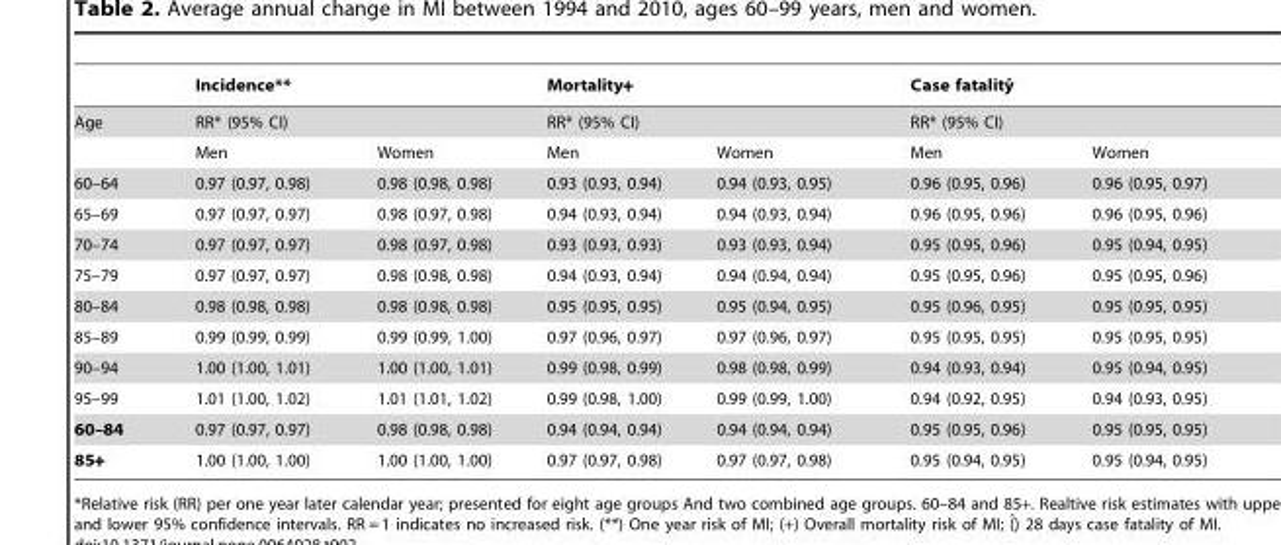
<table><thead><tr><td rowspan="3">Age</td><td rowspan="2" colspan="2">Incidence** RR* (95% CI)</td><td rowspan="2" colspan="2">Mortality+ RR* (95% CI)</td><td rowspan="2" colspan="2">Case fatalityˆ RR* (95% CI)</td></tr><tr></tr><tr><td>Men</td><td>Women</td><td>Men</td><td>Women</td><td>Men</td><td>Women</td></tr></thead><tbody><tr><td>60–64</td><td>0.97 (0.97, 0.98)</td><td>0.98 (0.98, 0.98)</td><td>0.93 (0.93, 0.94)</td><td>0.94 (0.93, 0.95)</td><td>0.96 (0.95, 0.96)</td><td>0.96 (0.95, 0.97)</td></tr><tr><td>65–69</td><td>0.97 (0.97, 0.97)</td><td>0.98 (0.97, 0.98)</td><td>0.94 (0.93, 0.94)</td><td>0.94 (0.93, 0.94)</td><td>0.96 (0.95, 0.96)</td><td>0.96 (0.95, 0.96)</td></tr><tr><td>70–74</td><td>0.97 (0.97, 0.97)</td><td>0.98 (0.97, 0.98)</td><td>0.93 (0.93, 0.93)</td><td>0.93 (0.93, 0.94)</td><td>0.95 (0.95, 0.96)</td><td>0.95 (0.94, 0.95)</td></tr><tr><td>75–79</td><td>0.97 (0.97, 0.97)</td><td>0.98 (0.98, 0.98)</td><td>0.94 (0.93, 0.94)</td><td>0.94 (0.94, 0.94)</td><td>0.95 (0.95, 0.96)</td><td>0.95 (0.95, 0.96)</td></tr><tr><td>80–84</td><td>0.98 (0.98, 0.98)</td><td>0.98 (0.98, 0.98)</td><td>0.95 (0.95, 0.95)</td><td>0.95 (0.94, 0.95)</td><td>0.95 (0.96, 0.95)</td><td>0.95 (0.95, 0.95)</td></tr><tr><td>85–89</td><td>0.99 (0.99, 0.99)</td><td>0.99 (0.99, 1.00)</td><td>0.97 (0.96, 0.97)</td><td>0.97 (0.96, 0.97)</td><td>0.95 (0.95, 0.95)</td><td>0.95 (0.95, 0.95)</td></tr><tr><td>90–94</td><td>1.00 (1.00, 1.01)</td><td>1.00 (1.00, 1.01)</td><td>0.99 (0.98, 0.99)</td><td>0.98 (0.98, 0.99)</td><td>0.94 (0.93, 0.94)</td><td>0.95 (0.94, 0.95)</td></tr><tr><td>95–99</td><td>1.01 (1.00, 1.02)</td><td>1.01 (1.01, 1.02)</td><td>0.99 (0.98, 1.00)</td><td>0.99 (0.99, 1.00)</td><td>0.94 (0.92, 0.95)</td><td>0.94 (0.93, 0.95)</td></tr><tr><td>60–84</td><td>0.97 (0.97, 0.97)</td><td>0.98 (0.98, 0.98)</td><td>0.94 (0.94, 0.94)</td><td>0.94 (0.94, 0.94)</td><td>0.95 (0.95, 0.96)</td><td>0.95 (0.95, 0.95)</td></tr><tr><td>85+</td><td>1.00 (1.00, 1.00)</td><td>1.00 (1.00, 1.00)</td><td>0.97 (0.97, 0.98)</td><td>0.97 (0.97, 0.98)</td><td>0.95 (0.94, 0.95)</td><td>0.95 (0.94, 0.95)</td></tr></tbody></table>